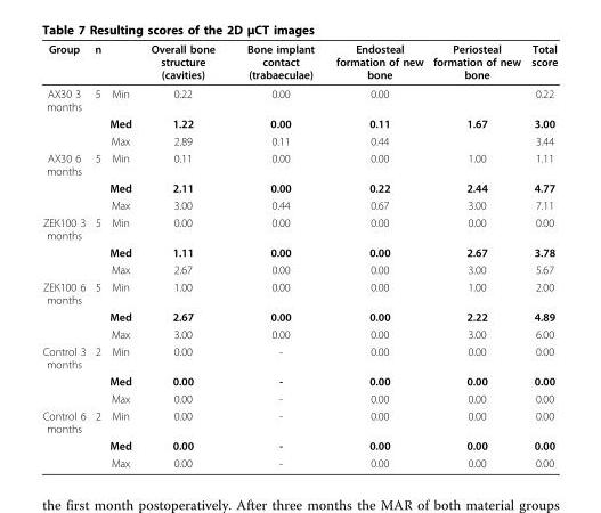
<table><thead><tr><td>Group</td><td>n</td><td></td><td>Overall bone structure (cavities)</td><td>Bone implant contact (trabaeculae)</td><td>Endosteal formation of new bone</td><td>Periosteal formation of new bone</td><td>Total score</td></tr></thead><tbody><tr><td rowspan="3">AX30 3 months</td><td>5</td><td>Min</td><td>0.22</td><td>0.00</td><td>0.00</td><td></td><td>0.22</td></tr><tr><td></td><td>Med</td><td>1.22</td><td>0.00</td><td>0.11</td><td>1.67</td><td>3.00</td></tr><tr><td></td><td>Max</td><td>2.89</td><td>0.11</td><td>0.44</td><td></td><td>3.44</td></tr><tr><td rowspan="3">AX30 6 months</td><td>5</td><td>Min</td><td>0.11</td><td>0.00</td><td>0.00</td><td>1.00</td><td>1.11</td></tr><tr><td></td><td>Med</td><td>2.11</td><td>0.00</td><td>0.22</td><td>2.44</td><td>4.77</td></tr><tr><td></td><td>Max</td><td>3.00</td><td>0.44</td><td>0.67</td><td>3.00</td><td>7.11</td></tr><tr><td rowspan="3">ZEK100 3 months</td><td>5</td><td>Min</td><td>0.00</td><td>0.00</td><td>0.00</td><td>0.00</td><td>0.00</td></tr><tr><td></td><td>Med</td><td>1.11</td><td>0.00</td><td>0.00</td><td>2.67</td><td>3.78</td></tr><tr><td></td><td>Max</td><td>2.67</td><td>0.00</td><td>0.00</td><td>3.00</td><td>5.67</td></tr><tr><td rowspan="3">ZEK100 6 months</td><td>5</td><td>Min</td><td>1.00</td><td>0.00</td><td>0.00</td><td>1.00</td><td>2.00</td></tr><tr><td></td><td>Med</td><td>2.67</td><td>0.00</td><td>0.00</td><td>2.22</td><td>4.89</td></tr><tr><td></td><td>Max</td><td>3.00</td><td>0.00</td><td>0.00</td><td>3.00</td><td>6.00</td></tr><tr><td rowspan="3">Control 3 months</td><td>2</td><td>Min</td><td>0.00</td><td>-</td><td>0.00</td><td>0.00</td><td>0.00</td></tr><tr><td></td><td>Med</td><td>0.00</td><td>-</td><td>0.00</td><td>0.00</td><td>0.00</td></tr><tr><td></td><td>Max</td><td>0.00</td><td>-</td><td>0.00</td><td>0.00</td><td>0.00</td></tr><tr><td rowspan="3">Control 6 months</td><td>2</td><td>Min</td><td>0.00</td><td>-</td><td>0.00</td><td>0.00</td><td>0.00</td></tr><tr><td></td><td>Med</td><td>0.00</td><td>-</td><td>0.00</td><td>0.00</td><td>0.00</td></tr><tr><td></td><td>Max</td><td>0.00</td><td>-</td><td>0.00</td><td>0.00</td><td>0.00</td></tr></tbody></table>